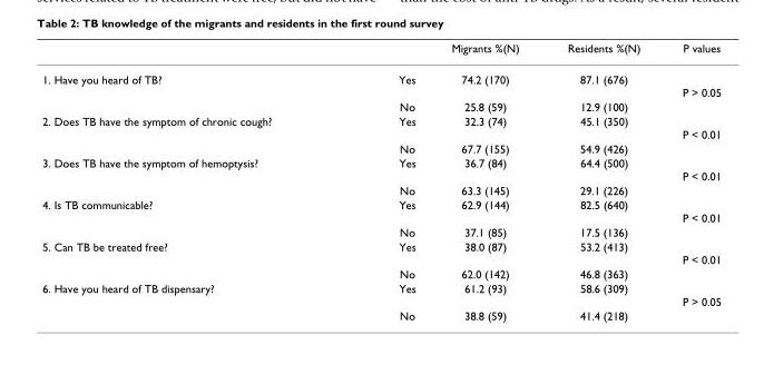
<table><thead><tr><td></td><td></td><td>Migrants %(N)</td><td>Residents %(N)</td><td>P values</td></tr></thead><tbody><tr><td rowspan="2">1. Have you heard of TB?</td><td>Yes</td><td>74.2 (170)</td><td>87.1 (676)</td><td>P &gt; 0.05</td></tr><tr><td>No</td><td>25.8 (59)</td><td>12.9 (100)</td><td></td></tr><tr><td rowspan="2">2. Does TB have the symptom of chronic cough?</td><td>Yes</td><td>32.3 (74)</td><td>45.1 (350)</td><td>P &lt; 0.01</td></tr><tr><td>No</td><td>67.7 (155)</td><td>54.9 (426)</td><td></td></tr><tr><td rowspan="2">3. Does TB have the symptom of hemoptysis?</td><td>Yes</td><td>36.7 (84)</td><td>64.4 (500)</td><td>P &lt; 0.01</td></tr><tr><td>No</td><td>63.3 (145)</td><td>29.1 (226)</td><td></td></tr><tr><td rowspan="2">4. Is TB communicable?</td><td>Yes</td><td>62.9 (144)</td><td>82.5 (640)</td><td>P &lt; 0.01</td></tr><tr><td>No</td><td>37.1 (85)</td><td>17.5 (136)</td><td></td></tr><tr><td rowspan="2">5. Can TB be treated free?</td><td>Yes</td><td>38.0 (87)</td><td>53.2 (413)</td><td>P &lt; 0.01</td></tr><tr><td>No</td><td>62.0 (142)</td><td>46.8 (363)</td><td></td></tr><tr><td rowspan="2">6. Have you heard of TB dispensary?</td><td>Yes</td><td>61.2 (93)</td><td>58.6 (309)</td><td>P &gt; 0.05</td></tr><tr><td>No</td><td>38.8 (59)</td><td>41.4 (218)</td><td></td></tr></tbody></table>